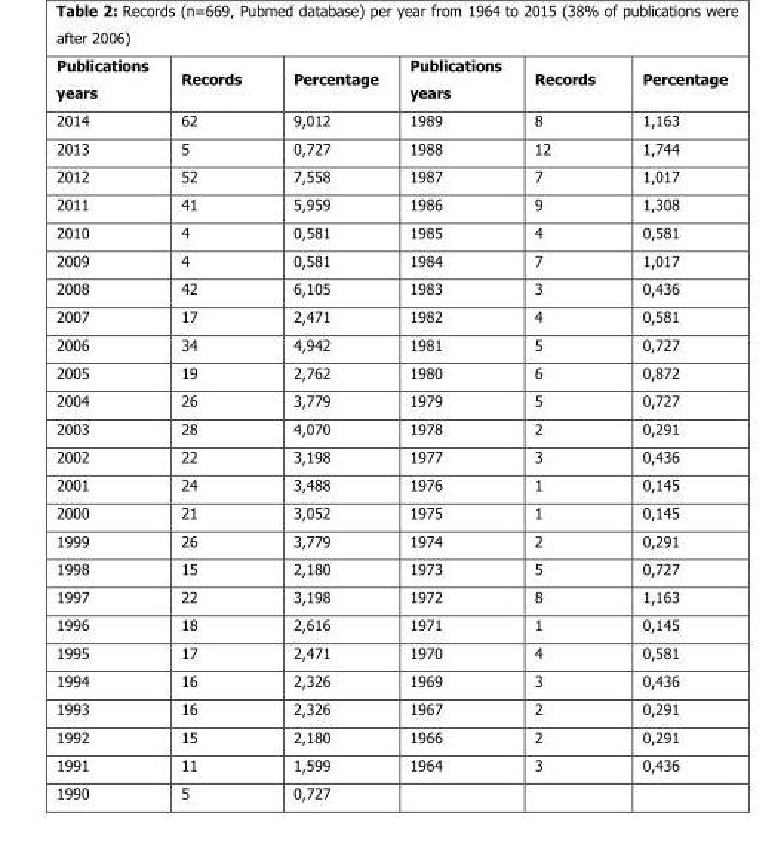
<table><thead><tr><td>Publications years</td><td>Records</td><td>Percentage</td><td>Publications years</td><td>Records</td><td>Percentage</td></tr></thead><tbody><tr><td>2014</td><td>62</td><td>9,012</td><td>1989</td><td>8</td><td>1,163</td></tr><tr><td>2013</td><td>5</td><td>0,727</td><td>1988</td><td>12</td><td>1,744</td></tr><tr><td>2012</td><td>52</td><td>7,558</td><td>1987</td><td>7</td><td>1,017</td></tr><tr><td>2011</td><td>41</td><td>5,959</td><td>1986</td><td>9</td><td>1,308</td></tr><tr><td>2010</td><td>4</td><td>0,581</td><td>1985</td><td>4</td><td>0,581</td></tr><tr><td>2009</td><td>4</td><td>0,581</td><td>1984</td><td>7</td><td>1,017</td></tr><tr><td>2008</td><td>42</td><td>6,105</td><td>1983</td><td>3</td><td>0,436</td></tr><tr><td>2007</td><td>17</td><td>2,471</td><td>1982</td><td>4</td><td>0,581</td></tr><tr><td>2006</td><td>34</td><td>4,942</td><td>1981</td><td>5</td><td>0,727</td></tr><tr><td>2005</td><td>19</td><td>2,762</td><td>1980</td><td>6</td><td>0,872</td></tr><tr><td>2004</td><td>26</td><td>3,779</td><td>1979</td><td>5</td><td>0,727</td></tr><tr><td>2003</td><td>28</td><td>4,070</td><td>1978</td><td>2</td><td>0,291</td></tr><tr><td>2002</td><td>22</td><td>3,198</td><td>1977</td><td>3</td><td>0,436</td></tr><tr><td>2001</td><td>24</td><td>3,488</td><td>1976</td><td>1</td><td>0,145</td></tr><tr><td>2000</td><td>21</td><td>3,052</td><td>1975</td><td>1</td><td>0,145</td></tr><tr><td>1999</td><td>26</td><td>3,779</td><td>1974</td><td>2</td><td>0,291</td></tr><tr><td>1998</td><td>15</td><td>2,180</td><td>1973</td><td>5</td><td>0,727</td></tr><tr><td>1997</td><td>22</td><td>3,198</td><td>1972</td><td>8</td><td>1,163</td></tr><tr><td>1996</td><td>18</td><td>2,616</td><td>1971</td><td>1</td><td>0,145</td></tr><tr><td>1995</td><td>17</td><td>2,471</td><td>1970</td><td>4</td><td>0,581</td></tr><tr><td>1994</td><td>16</td><td>2,326</td><td>1969</td><td>3</td><td>0,436</td></tr><tr><td>1993</td><td>16</td><td>2,326</td><td>1967</td><td>2</td><td>0,291</td></tr><tr><td>1992</td><td>15</td><td>2,180</td><td>1966</td><td>2</td><td>0,291</td></tr><tr><td>1991</td><td>11</td><td>1,599</td><td>1964</td><td>3</td><td>0,436</td></tr><tr><td>1990</td><td>5</td><td>0,727</td><td></td><td></td><td></td></tr></tbody></table>